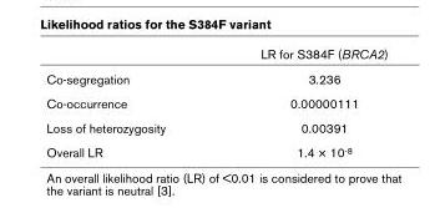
<table><thead><tr><td></td><td>LR for S384F (BRCA2)</td></tr></thead><tbody><tr><td>Co-segregation</td><td>3.236</td></tr><tr><td>Co-occurrence</td><td>0.00000111</td></tr><tr><td>Loss of heterozygosity</td><td>0.00391</td></tr><tr><td>Overall LR</td><td>1.4 × 10-8</td></tr></tbody></table>